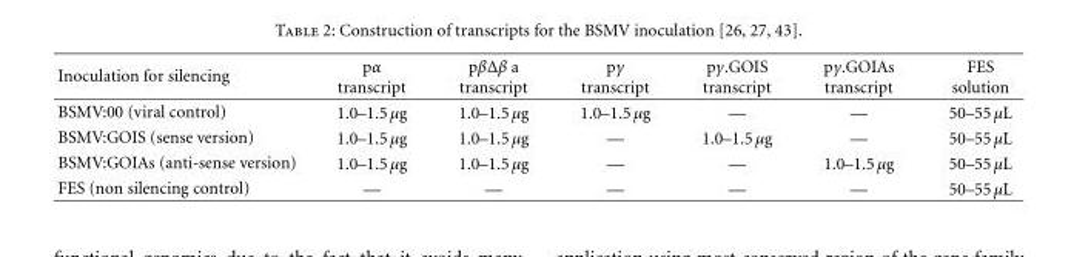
<table><thead><tr><td>Inoculation for silencing</td><td>pα transcript</td><td>pβΔβ a transcript</td><td>pγ transcript</td><td>pγ.GOIS transcript</td><td>pγ.GOIAs transcript</td><td>FES solution</td></tr></thead><tbody><tr><td>BSMV:00 (viral control)</td><td>1.0–1.5 μg</td><td>1.0–1.5 μg</td><td>1.0–1.5 μg</td><td>—</td><td>—</td><td>50–55 μL</td></tr><tr><td>BSMV:GOIS (sense version)</td><td>1.0–1.5 μg</td><td>1.0–1.5 μg</td><td>—</td><td>1.0–1.5 μg</td><td>—</td><td>50–55 μL</td></tr><tr><td>BSMV:GOIAs (anti-sense version)</td><td>1.0–1.5 μg</td><td>1.0–1.5 μg</td><td>—</td><td>—</td><td>1.0–1.5 μg</td><td>50–55 μL</td></tr><tr><td>FES (non silencing control)</td><td>—</td><td>—</td><td>—</td><td>—</td><td>—</td><td>50–55 μL</td></tr></tbody></table>